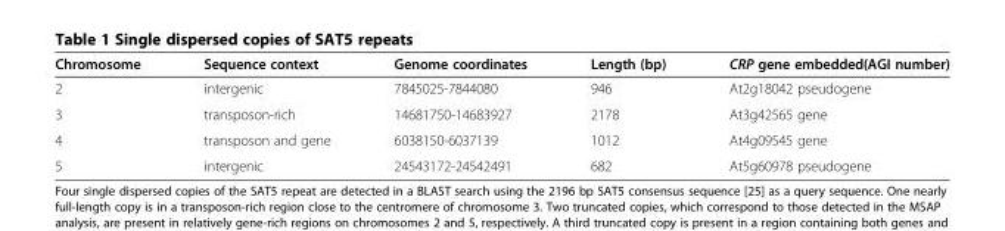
<table><thead><tr><td>Chromosome</td><td>Sequence context</td><td>Genome coordinates</td><td>Length (bp)</td><td>CRP gene embedded(AGI number)</td></tr></thead><tbody><tr><td>2</td><td>intergenic</td><td>7845025-7844080</td><td>946</td><td>At2g18042 pseudogene</td></tr><tr><td>3</td><td>transposon-rich</td><td>14681750-14683927</td><td>2178</td><td>At3g42565 gene</td></tr><tr><td>4</td><td>transposon and gene</td><td>6038150-6037139</td><td>1012</td><td>At4g09545 gene</td></tr><tr><td>5</td><td>intergenic</td><td>24543172-24542491</td><td>682</td><td>At5g60978 pseudogene</td></tr></tbody></table>